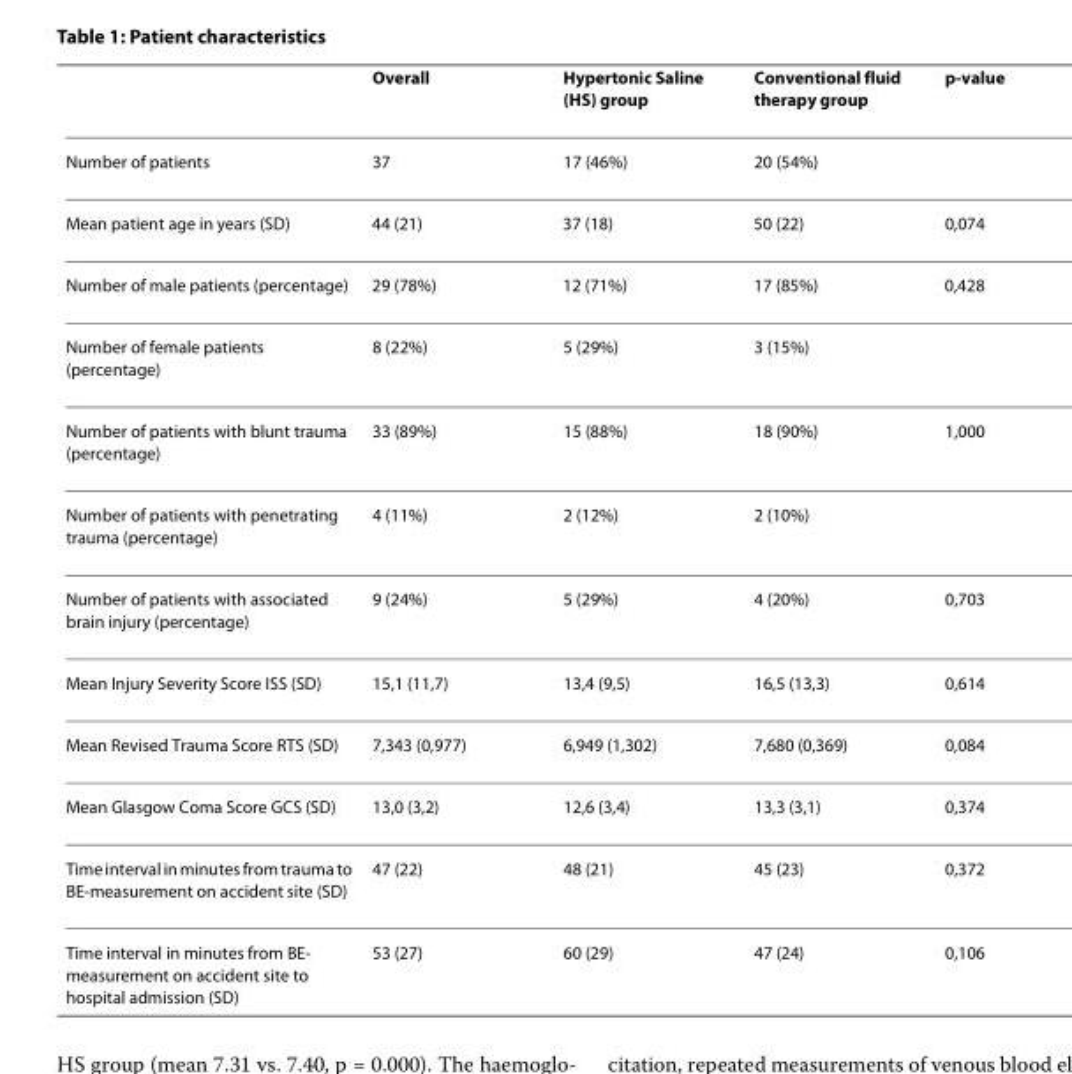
<table><thead><tr><td></td><td>Overall</td><td>Hypertonic Saline (HS) group</td><td>Conventional fluid therapy group</td><td>p-value</td></tr></thead><tbody><tr><td>Number of patients</td><td>37</td><td>17 (46%)</td><td>20 (54%)</td><td></td></tr><tr><td>Mean patient age in years (SD)</td><td>44 (21)</td><td>37 (18)</td><td>50 (22)</td><td>0,074</td></tr><tr><td>Number of male patients (percentage)</td><td>29 (78%)</td><td>12 (71%)</td><td>17 (85%)</td><td>0,428</td></tr><tr><td>Number of female patients (percentage)</td><td>8 (22%)</td><td>5 (29%)</td><td>3 (15%)</td><td></td></tr><tr><td>Number of patients with blunt trauma (percentage)</td><td>33 (89%)</td><td>15 (88%)</td><td>18 (90%)</td><td>1,000</td></tr><tr><td>Number of patients with penetrating trauma (percentage)</td><td>4 (11%)</td><td>2 (12%)</td><td>2 (10%)</td><td></td></tr><tr><td>Number of patients with associated brain injury (percentage)</td><td>9 (24%)</td><td>5 (29%)</td><td>4 (20%)</td><td>0,703</td></tr><tr><td>Mean Injury Severity Score ISS (SD)</td><td>15,1 (11,7)</td><td>13,4 (9,5)</td><td>16,5 (13,3)</td><td>0,614</td></tr><tr><td>Mean Revised Trauma Score RTS (SD)</td><td>7,343 (0,977)</td><td>6,949 (1,302)</td><td>7,680 (0,369)</td><td>0,084</td></tr><tr><td>Mean Glasgow Coma Score GCS (SD)</td><td>13,0 (3,2)</td><td>12,6 (3,4)</td><td>13,3 (3,1)</td><td>0,374</td></tr><tr><td>Time interval in minutes from trauma to BE-measurement on accident site (SD)</td><td>47 (22)</td><td>48 (21)</td><td>45 (23)</td><td>0,372</td></tr><tr><td>Time interval in minutes from BE- measurement on accident site to hospital admission (SD)</td><td>53 (27)</td><td>60 (29)</td><td>47 (24)</td><td>0,106</td></tr></tbody></table>